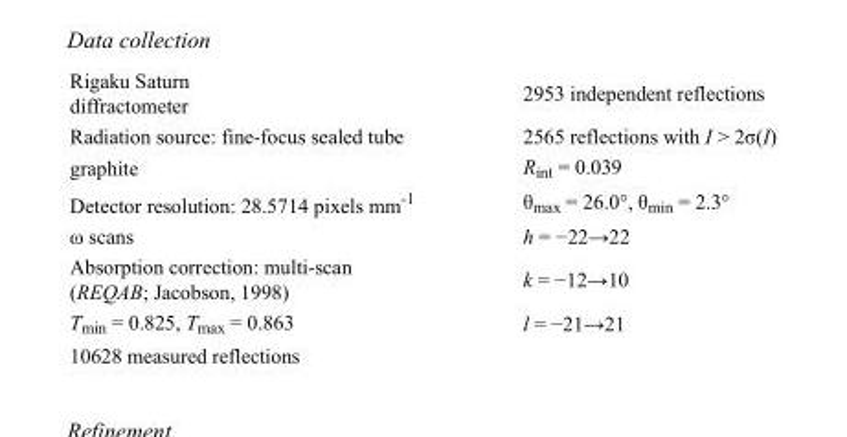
<table><tbody><tr><td>Rigaku Saturn diffractometer</td><td>2953 independent reflections</td></tr><tr><td>Radiation source: fine-focus sealed tube</td><td>2565 reflections with I &gt; 2σ(I)</td></tr><tr><td>graphite</td><td>R<sub>int</sub> = 0.039</td></tr><tr><td>Detector resolution: 28.5714 pixels mm<sup>-1</sup></td><td>θ<sub>max</sub> = 26.0°, θ<sub>min</sub> = 2.3°</td></tr><tr><td>ω scans</td><td>h = −22→22</td></tr><tr><td>Absorption correction: multi-scan (REQAB; Jacobson, 1998)</td><td>k = −12→10</td></tr><tr><td>T<sub>min</sub> = 0.825, T<sub>max</sub> = 0.863</td><td>l = −21→21</td></tr><tr><td>10628 measured reflections</td><td></td></tr></tbody></table>